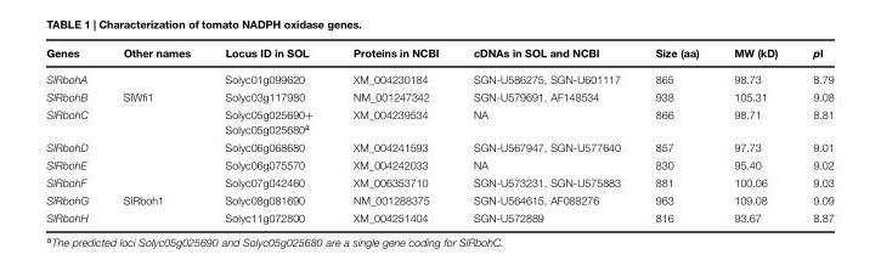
<table><thead><tr><td>Genes</td><td>Other names</td><td>Locus ID in SOL</td><td>Proteins in NCBI</td><td>cDNAs in SOL and NCBI</td><td>Size (aa)</td><td>MW (kD)</td><td>pI</td></tr></thead><tbody><tr><td>SlRbohA</td><td></td><td>Solyc01g099620</td><td>XM_004230184</td><td>SGN-U586275, SGN-U601117</td><td>865</td><td>98.73</td><td>8.79</td></tr><tr><td>SlRbohB</td><td>SlWfi1</td><td>Solyc03g117980</td><td>NM_001247342</td><td>SGN-U579691, AF148534</td><td>938</td><td>105.31</td><td>9.08</td></tr><tr><td>SlRbohC</td><td></td><td>Solyc05g025690+ Solyc05g025680<sup>a</sup></td><td>XM_004239534</td><td>NA</td><td>866</td><td>98.71</td><td>8.81</td></tr><tr><td>SlRbohD</td><td></td><td>Solyc06g068680</td><td>XM_004241593</td><td>SGN-U567947, SGN-U577640</td><td>857</td><td>97.73</td><td>9.01</td></tr><tr><td>SlRbohE</td><td></td><td>Solyc06g075570</td><td>XM_004242033</td><td>NA</td><td>830</td><td>95.40</td><td>9.02</td></tr><tr><td>SlRbohF</td><td></td><td>Solyc07g042460</td><td>XM_006353710</td><td>SGN-U573231, SGN-U575883</td><td>881</td><td>100.06</td><td>9.03</td></tr><tr><td>SlRbohG</td><td>SlRboh1</td><td>Solyc08g081690</td><td>NM_001288375</td><td>SGN-U564615, AF088276</td><td>963</td><td>109.08</td><td>9.09</td></tr><tr><td>SlRbohH</td><td></td><td>Solyc11g072800</td><td>XM_004251404</td><td>SGN-U572889</td><td>816</td><td>93.67</td><td>8.87</td></tr></tbody></table>